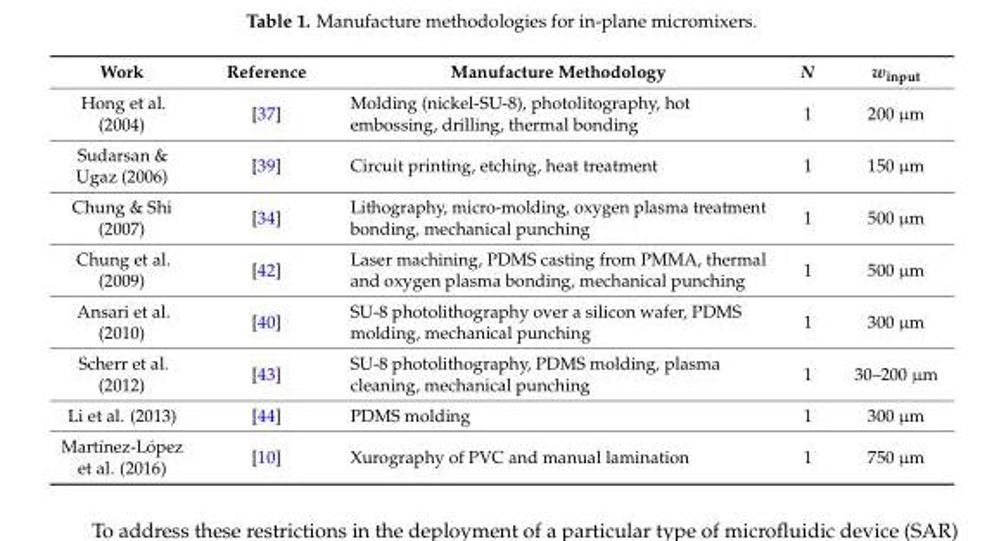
<table><thead><tr><td>Work</td><td>Reference</td><td>Manufacture Methodology</td><td>N</td><td>w<sub>input</sub></td></tr></thead><tbody><tr><td>Hong et al. (2004)</td><td>[37]</td><td>Molding (nickel-SU-8), photolitography, hot embossing, drilling, thermal bonding</td><td>1</td><td>200 µm</td></tr><tr><td>Sudarsan &amp; Ugaz (2006)</td><td>[39]</td><td>Circuit printing, etching, heat treatment</td><td>1</td><td>150 µm</td></tr><tr><td>Chung &amp; Shi (2007)</td><td>[34]</td><td>Lithography, micro-molding, oxygen plasma treatment bonding, mechanical punching</td><td>1</td><td>500 µm</td></tr><tr><td>Chung et al. (2009)</td><td>[42]</td><td>Laser machining, PDMS casting from PMMA, thermal and oxygen plasma bonding, mechanical punching</td><td>1</td><td>500 µm</td></tr><tr><td>Ansari et al. (2010)</td><td>[40]</td><td>SU-8 photolithography over a silicon wafer, PDMS molding, mechanical punching</td><td>1</td><td>300 µm</td></tr><tr><td>Scherr et al. (2012)</td><td>[43]</td><td>SU-8 photolithography, PDMS molding, plasma cleaning, mechanical punching</td><td>1</td><td>30–200 µm</td></tr><tr><td>Li et al. (2013)</td><td>[44]</td><td>PDMS molding</td><td>1</td><td>300 µm</td></tr><tr><td>Martínez-López et al. (2016)</td><td>[10]</td><td>Xurography of PVC and manual lamination</td><td>1</td><td>750 µm</td></tr></tbody></table>